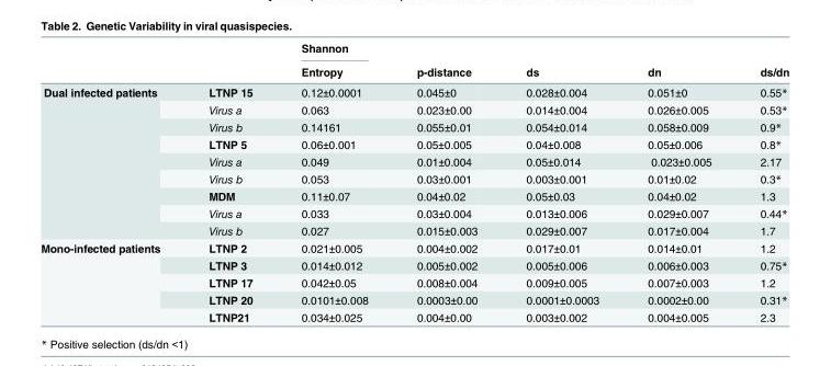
<table><thead><tr><td rowspan="2"></td><td rowspan="2"></td><td rowspan="2">Shannon Entropy</td><td rowspan="2">p-distance</td><td rowspan="2">ds</td><td rowspan="2">dn</td><td rowspan="2">ds/dn</td></tr><tr></tr></thead><tbody><tr><td rowspan="9">Dual infected patients</td><td>LTNP 15</td><td>0.12±0.0001</td><td>0.045±0</td><td>0.028±0.004</td><td>0.051±0</td><td>0.55*</td></tr><tr><td>Virus a</td><td>0.063</td><td>0.023±0.00</td><td>0.014±0.004</td><td>0.026±0.005</td><td>0.53*</td></tr><tr><td>Virus b</td><td>0.14161</td><td>0.055±0.01</td><td>0.054±0.014</td><td>0.058±0.009</td><td>0.9*</td></tr><tr><td>LTNP 5</td><td>0.06±0.001</td><td>0.05±0.005</td><td>0.04±0.008</td><td>0.05±0.006</td><td>0.8*</td></tr><tr><td>Virus a</td><td>0.049</td><td>0.01±0.004</td><td>0.05±0.014</td><td>0.023±0.005</td><td>2.17</td></tr><tr><td>Virus b</td><td>0.053</td><td>0.03±0.001</td><td>0.003±0.001</td><td>0.01±0.02</td><td>0.3*</td></tr><tr><td>MDM</td><td>0.11±0.07</td><td>0.04±0.02</td><td>0.05±0.03</td><td>0.04±0.02</td><td>1.3</td></tr><tr><td>Virus a</td><td>0.033</td><td>0.03±0.004</td><td>0.013±0.006</td><td>0.029±0.007</td><td>0.44*</td></tr><tr><td>Virus b</td><td>0.027</td><td>0.015±0.003</td><td>0.029±0.007</td><td>0.017±0.004</td><td>1.7</td></tr><tr><td rowspan="5">Mono-infected patients</td><td>LTNP 2</td><td>0.021±0.005</td><td>0.004±0.002</td><td>0.017±0.01</td><td>0.014±0.01</td><td>1.2</td></tr><tr><td>LTNP 3</td><td>0.014±0.012</td><td>0.005±0.002</td><td>0.005±0.006</td><td>0.006±0.003</td><td>0.75*</td></tr><tr><td>LTNP 17</td><td>0.042±0.05</td><td>0.008±0.004</td><td>0.009±0.005</td><td>0.007±0.003</td><td>1.2</td></tr><tr><td>LTNP 20</td><td>0.0101±0.008</td><td>0.0003±0.00</td><td>0.0001±0.0003</td><td>0.0002±0.00</td><td>0.31*</td></tr><tr><td>LTNP21</td><td>0.034±0.025</td><td>0.004±0.00</td><td>0.003±0.002</td><td>0.004±0.005</td><td>2.3</td></tr></tbody></table>